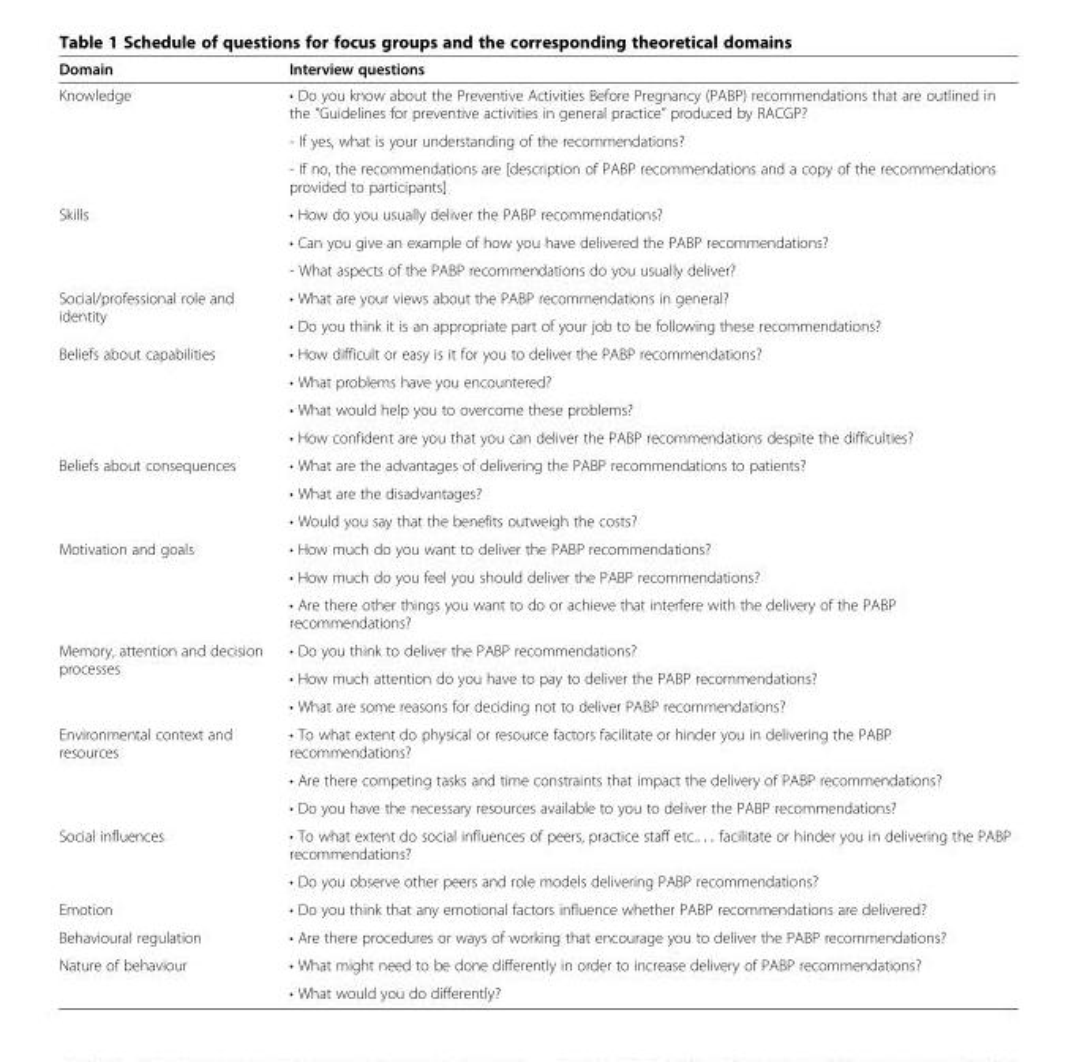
<table><thead><tr><td>Domain</td><td>Interview questions</td></tr></thead><tbody><tr><td rowspan="3">Knowledge</td><td>• Do you know about the Preventive Activities Before Pregnancy (PABP) recommendations that are outlined in the “Guidelines for preventive activities in general practice” produced by RACGP?</td></tr><tr><td>- If yes, what is your understanding of the recommendations?</td></tr><tr><td>- If no, the recommendations are [description of PABP recommendations and a copy of the recommendations provided to participants]</td></tr><tr><td rowspan="3">Skills</td><td>• How do you usually deliver the PABP recommendations?</td></tr><tr><td>• Can you give an example of how you have delivered the PABP recommendations?</td></tr><tr><td>- What aspects of the PABP recommendations do you usually deliver?</td></tr><tr><td rowspan="2">Social/professional role and identity</td><td>• What are your views about the PABP recommendations in general?</td></tr><tr><td>• Do you think it is an appropriate part of your job to be following these recommendations?</td></tr><tr><td rowspan="4">Beliefs about capabilities</td><td>• How difficult or easy is it for you to deliver the PABP recommendations?</td></tr><tr><td>• What problems have you encountered?</td></tr><tr><td>• What would help you to overcome these problems?</td></tr><tr><td>• How confident are you that you can deliver the PABP recommendations despite the difficulties?</td></tr><tr><td rowspan="3">Beliefs about consequences</td><td>• What are the advantages of delivering the PABP recommendations to patients?</td></tr><tr><td>• What are the disadvantages?</td></tr><tr><td>• Would you say that the benefits outweigh the costs?</td></tr><tr><td rowspan="3">Motivation and goals</td><td>• How much do you want to deliver the PABP recommendations?</td></tr><tr><td>• How much do you feel you should deliver the PABP recommendations?</td></tr><tr><td>• Are there other things you want to do or achieve that interfere with the delivery of the PABP recommendations?</td></tr><tr><td rowspan="3">Memory, attention and decision processes</td><td>• Do you think to deliver the PABP recommendations?</td></tr><tr><td>• How much attention do you have to pay to deliver the PABP recommendations?</td></tr><tr><td>• What are some reasons for deciding not to deliver PABP recommendations?</td></tr><tr><td rowspan="3">Environmental context and resources</td><td>• To what extent do physical or resource factors facilitate or hinder you in delivering the PABP recommendations?</td></tr><tr><td>• Are there competing tasks and time constraints that impact the delivery of PABP recommendations?</td></tr><tr><td>• Do you have the necessary resources available to you to deliver the PABP recommendations?</td></tr><tr><td rowspan="2">Social influences</td><td>• To what extent do social influences of peers, practice staff etc.. . . facilitate or hinder you in delivering the PABP recommendations?</td></tr><tr><td>• Do you observe other peers and role models delivering PABP recommendations?</td></tr><tr><td>Emotion</td><td>• Do you think that any emotional factors influence whether PABP recommendations are delivered?</td></tr><tr><td>Behavioural regulation</td><td>• Are there procedures or ways of working that encourage you to deliver the PABP recommendations?</td></tr><tr><td rowspan="2">Nature of behaviour</td><td>• What might need to be done differently in order to increase delivery of PABP recommendations?</td></tr><tr><td>• What would you do differently?</td></tr></tbody></table>